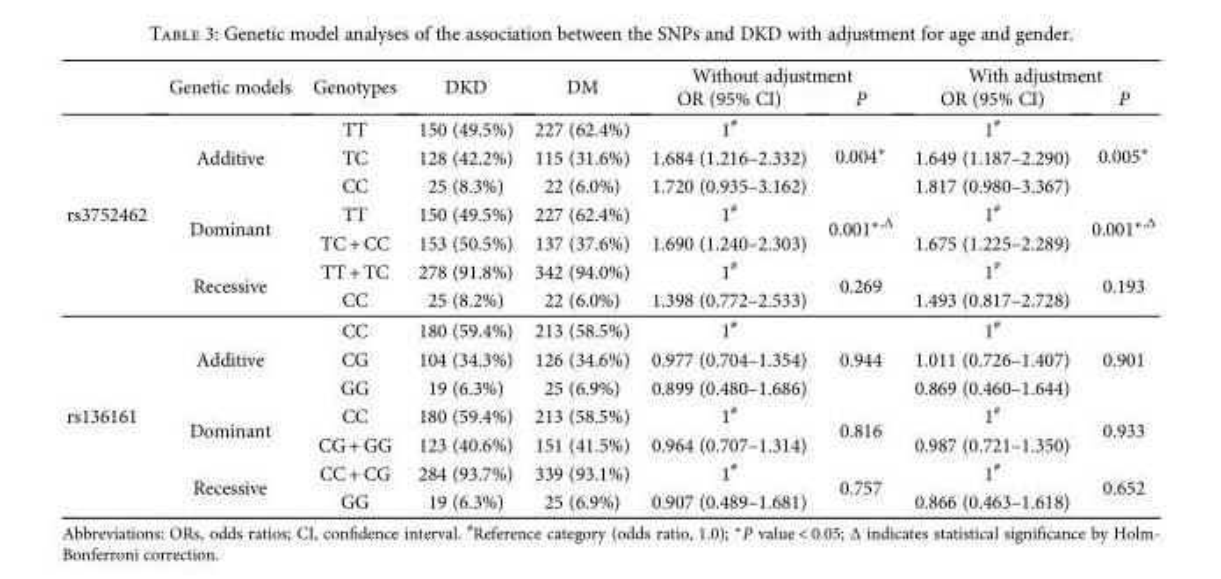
<table><thead><tr><td rowspan="2"></td><td rowspan="2">Genetic models</td><td rowspan="2">Genotypes</td><td rowspan="2">DKD</td><td rowspan="2">DM</td><td colspan="2">Without adjustment</td><td colspan="2">With adjustment</td></tr><tr><td>OR (95% CI)</td><td>P</td><td>OR (95% CI)</td><td>P</td></tr></thead><tbody><tr><td rowspan="7">rs3752462</td><td rowspan="3">Additive</td><td>TT</td><td>150 (49.5%)</td><td>227 (62.4%)</td><td>1<sup>#</sup></td><td rowspan="3">0.004∗</td><td>1<sup>#</sup></td><td rowspan="3">0.005∗</td></tr><tr><td>TC</td><td>128 (42.2%)</td><td>115 (31.6%)</td><td>1.684 (1.216–2.332)</td><td>1.649 (1.187–2.290)</td></tr><tr><td>CC</td><td>25 (8.3%)</td><td>22 (6.0%)</td><td>1.720 (0.935–3.162)</td><td>1.817 (0.980–3.367)</td></tr><tr><td rowspan="2">Dominant</td><td>TT</td><td>150 (49.5%)</td><td>227 (62.4%)</td><td>1<sup>#</sup></td><td rowspan="2">0.001∗,Δ</td><td>1<sup>#</sup></td><td rowspan="2">0.001∗,Δ</td></tr><tr><td>TC + CC</td><td>153 (50.5%)</td><td>137 (37.6%)</td><td>1.690 (1.240–2.303)</td><td>1.675 (1.225–2.289)</td></tr><tr><td rowspan="2">Recessive</td><td>TT + TC</td><td>278 (91.8%)</td><td>342 (94.0%)</td><td>1<sup>#</sup></td><td rowspan="2">0.269</td><td>1<sup>#</sup></td><td rowspan="2">0.193</td></tr><tr><td>CC</td><td>25 (8.2%)</td><td>22 (6.0%)</td><td>1.398 (0.772–2.533)</td><td>1.493 (0.817–2.728)</td></tr><tr><td rowspan="7">rs136161</td><td rowspan="3">Additive</td><td>CC</td><td>180 (59.4%)</td><td>213 (58.5%)</td><td>1<sup>#</sup></td><td rowspan="3">0.944</td><td>1<sup>#</sup></td><td rowspan="3">0.901</td></tr><tr><td>CG</td><td>104 (34.3%)</td><td>126 (34.6%)</td><td>0.977 (0.704–1.354)</td><td>1.011 (0.726–1.407)</td></tr><tr><td>GG</td><td>19 (6.3%)</td><td>25 (6.9%)</td><td>0.899 (0.480–1.686)</td><td>0.869 (0.460–1.644)</td></tr><tr><td rowspan="2">Dominant</td><td>CC</td><td>180 (59.4%)</td><td>213 (58.5%)</td><td>1<sup>#</sup></td><td rowspan="2">0.816</td><td>1<sup>#</sup></td><td rowspan="2">0.933</td></tr><tr><td>CG + GG</td><td>123 (40.6%)</td><td>151 (41.5%)</td><td>0.964 (0.707–1.314)</td><td>0.987 (0.721–1.350)</td></tr><tr><td rowspan="2">Recessive</td><td>CC + CG</td><td>284 (93.7%)</td><td>339 (93.1%)</td><td>1<sup>#</sup></td><td rowspan="2">0.757</td><td>1<sup>#</sup></td><td rowspan="2">0.652</td></tr><tr><td>GG</td><td>19 (6.3%)</td><td>25 (6.9%)</td><td>0.907 (0.489–1.681)</td><td>0.866 (0.463–1.618)</td></tr></tbody></table>